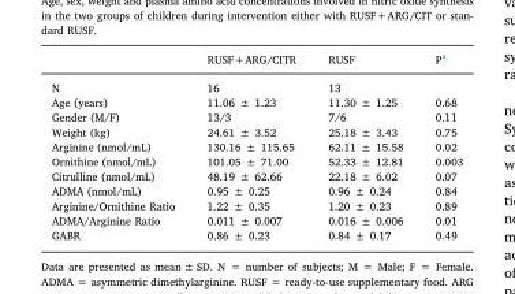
<table><thead><tr><td></td><td>RUSF+ARG/CITR</td><td>RUSF</td><td>P<sup>a</sup></td></tr></thead><tbody><tr><td>N</td><td>16</td><td>13</td><td></td></tr><tr><td>Age (years)</td><td>11.06 ± 1.23</td><td>11.30 ± 1.25</td><td>0.68</td></tr><tr><td>Gender (M/F)</td><td>13/3</td><td>7/6</td><td>0.11</td></tr><tr><td>Weight (kg)</td><td>24.61 ± 3.52</td><td>25.18 ± 3.43</td><td>0.75</td></tr><tr><td>Arginine (nmol/mL)</td><td>130.16 ± 115.65</td><td>62.11 ± 15.58</td><td>0.02</td></tr><tr><td>Ornithine (nmol/mL)</td><td>101.05 ± 71.00</td><td>52.33 ± 12.81</td><td>0.003</td></tr><tr><td>Citrulline (nmol/mL)</td><td>48.19 ± 62.66</td><td>22.18 ± 6.02</td><td>0.07</td></tr><tr><td>ADMA (nmol/mL)</td><td>0.95 ± 0.25</td><td>0.96 ± 0.24</td><td>0.84</td></tr><tr><td>Arginine/Ornithine Ratio</td><td>1.22 ± 0.35</td><td>1.20 ± 0.23</td><td>0.89</td></tr><tr><td>ADMA/Arginine Ratio</td><td>0.011 ± 0.007</td><td>0.016 ± 0.006</td><td>0.01</td></tr><tr><td>GABR</td><td>0.86 ± 0.23</td><td>0.84 ± 0.17</td><td>0.49</td></tr></tbody></table>